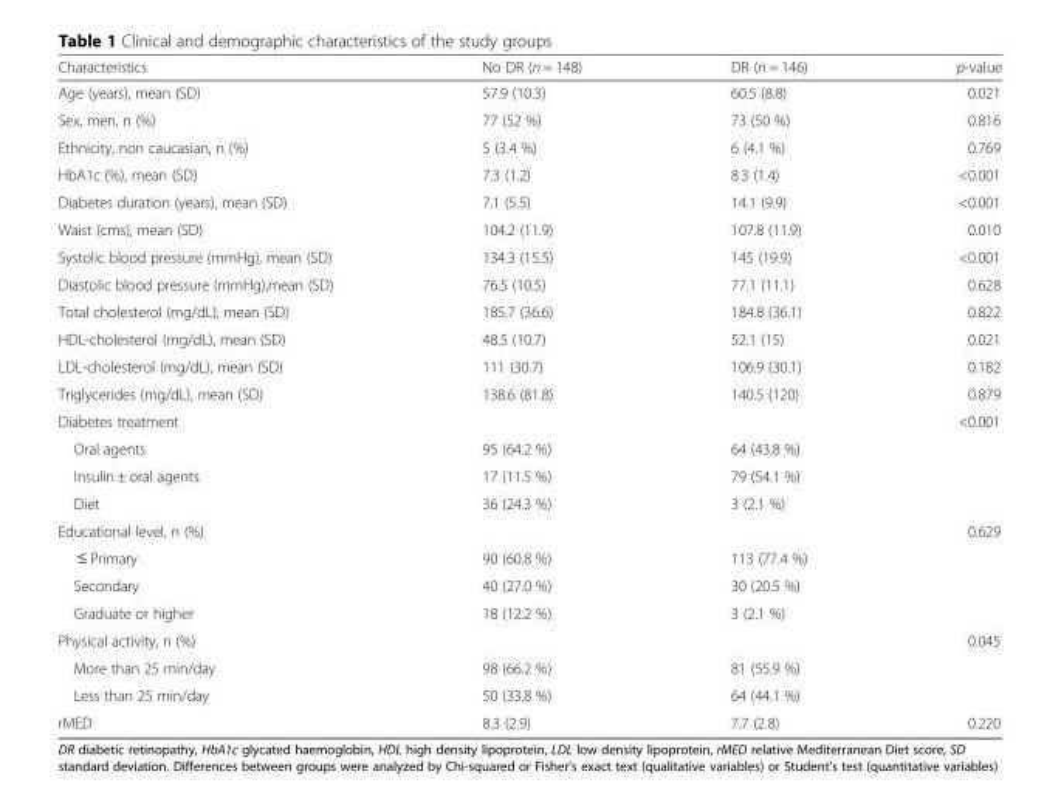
<table><thead><tr><td>Characteristics</td><td>No DR (n = 148)</td><td>DR (n = 146)</td><td>p-value</td></tr></thead><tbody><tr><td>Age (years), mean (SD)</td><td>57.9 (10.3)</td><td>60.5 (8.8)</td><td>0.021</td></tr><tr><td>Sex, men, n (%)</td><td>77 (52 %)</td><td>73 (50 %)</td><td>0.816</td></tr><tr><td>Ethnicity, non caucasian, n (%)</td><td>5 (3.4 %)</td><td>6 (4.1 %)</td><td>0.769</td></tr><tr><td>HbA1c (%), mean (SD)</td><td>7.3 (1.2)</td><td>8.3 (1.4)</td><td>&lt;0.001</td></tr><tr><td>Diabetes duration (years), mean (SD)</td><td>7.1 (5.5)</td><td>14.1 (9.9)</td><td>&lt;0.001</td></tr><tr><td>Waist (cms), mean (SD)</td><td>104.2 (11.9)</td><td>107.8 (11.9)</td><td>0.010</td></tr><tr><td>Systolic blood pressure (mmHg), mean (SD)</td><td>134.3 (15.5)</td><td>145 (19.9)</td><td>&lt;0.001</td></tr><tr><td>Diastolic blood pressure (mmHg),mean (SD)</td><td>76.5 (10.5)</td><td>77.1 (11.1)</td><td>0.628</td></tr><tr><td>Total cholesterol (mg/dL), mean (SD)</td><td>185.7 (36.6)</td><td>184.8 (36.1)</td><td>0.822</td></tr><tr><td>HDL-cholesterol (mg/dL), mean (SD)</td><td>48.5 (10.7)</td><td>52.1 (15)</td><td>0.021</td></tr><tr><td>LDL-cholesterol (mg/dL), mean (SD)</td><td>111 (30.7)</td><td>106.9 (30.1)</td><td>0.182</td></tr><tr><td>Triglycerides (mg/dL), mean (SD)</td><td>138.6 (81.8)</td><td>140.5 (120)</td><td>0.879</td></tr><tr><td colspan="3">Diabetes treatment</td><td rowspan="4">&lt;0.001</td></tr><tr><td>Oral agents</td><td>95 (64.2 %)</td><td>64 (43.8 %)</td></tr><tr><td>Insulin ± oral agents</td><td>17 (11.5 %)</td><td>79 (54.1 %)</td></tr><tr><td>Diet</td><td>36 (24.3 %)</td><td>3 (2.1 %)</td></tr><tr><td colspan="3">Educational level, n (%)</td><td rowspan="4">0.629</td></tr><tr><td>≤ Primary</td><td>90 (60.8 %)</td><td>113 (77.4 %)</td></tr><tr><td>Secondary</td><td>40 (27.0 %)</td><td>30 (20.5 %)</td></tr><tr><td>Graduate or higher</td><td>18 (12.2 %)</td><td>3 (2.1 %)</td></tr><tr><td colspan="3">Physical activity, n (%)</td><td rowspan="3">0.045</td></tr><tr><td>More than 25 min/day</td><td>98 (66.2 %)</td><td>81 (55.9 %)</td></tr><tr><td>Less than 25 min/day</td><td>50 (33.8 %)</td><td>64 (44.1 %)</td></tr><tr><td>rMED</td><td>8.3 (2.9)</td><td>7.7 (2.8)</td><td>0.220</td></tr></tbody></table>